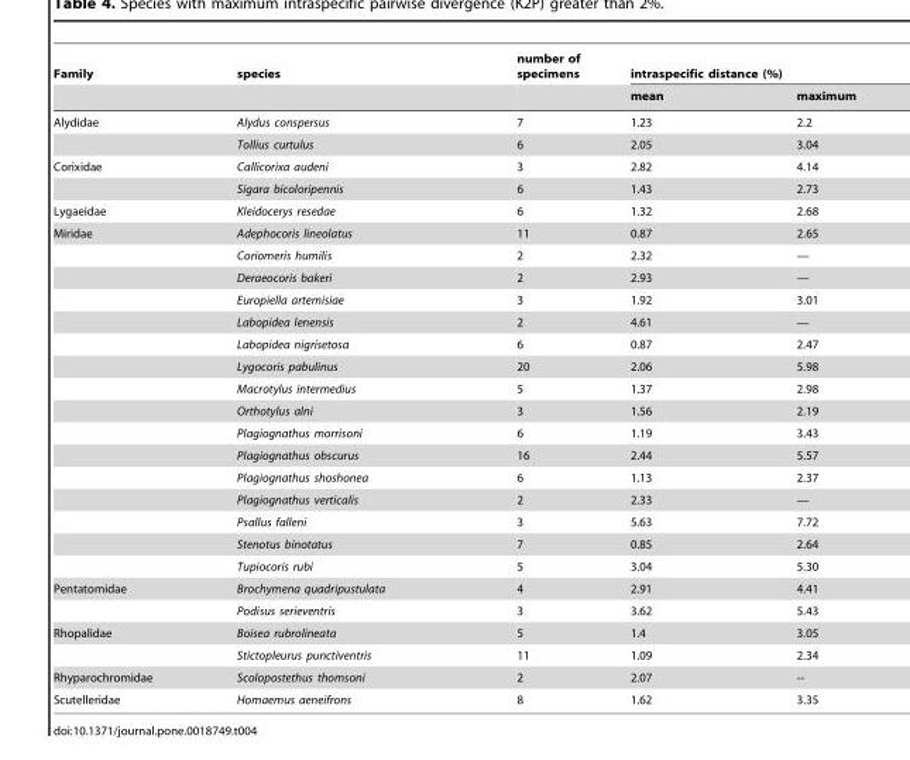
<table><thead><tr><td rowspan="2">Family</td><td rowspan="2">species</td><td rowspan="2">number of specimens</td><td colspan="2">intraspecific distance (%)</td></tr><tr><td>mean</td><td>maximum</td></tr></thead><tbody><tr><td rowspan="2">Alydidae</td><td>Alydus conspersus</td><td>7</td><td>1.23</td><td>2.2</td></tr><tr><td>Tollius curtulus</td><td>6</td><td>2.05</td><td>3.04</td></tr><tr><td rowspan="2">Corixidae</td><td>Callicorixa audeni</td><td>3</td><td>2.82</td><td>4.14</td></tr><tr><td>Sigara bicoloripennis</td><td>6</td><td>1.43</td><td>2.73</td></tr><tr><td>Lygaeidae</td><td>Kleidocerys resedae</td><td>6</td><td>1.32</td><td>2.68</td></tr><tr><td rowspan="16">Miridae</td><td>Adephocoris lineolatus</td><td>11</td><td>0.87</td><td>2.65</td></tr><tr><td>Coriomeris humilis</td><td>2</td><td>2.32</td><td>—</td></tr><tr><td>Deraeocoris bakeri</td><td>2</td><td>2.93</td><td>—</td></tr><tr><td>Europiella artemisiae</td><td>3</td><td>1.92</td><td>3.01</td></tr><tr><td>Labopidea lenensis</td><td>2</td><td>4.61</td><td>—</td></tr><tr><td>Labopidea nigrisetosa</td><td>6</td><td>0.87</td><td>2.47</td></tr><tr><td>Lygocoris pabulinus</td><td>20</td><td>2.06</td><td>5.98</td></tr><tr><td>Macrotylus intermedius</td><td>5</td><td>1.37</td><td>2.98</td></tr><tr><td>Orthotylus alni</td><td>3</td><td>1.56</td><td>2.19</td></tr><tr><td>Plagiognathus morrisoni</td><td>6</td><td>1.19</td><td>3.43</td></tr><tr><td>Plagiognathus obscurus</td><td>16</td><td>2.44</td><td>5.57</td></tr><tr><td>Plagiognathus shoshonea</td><td>6</td><td>1.13</td><td>2.37</td></tr><tr><td>Plagiognathus verticalis</td><td>2</td><td>2.33</td><td>—</td></tr><tr><td>Psallus falleni</td><td>3</td><td>5.63</td><td>7.72</td></tr><tr><td>Stenotus binotatus</td><td>7</td><td>0.85</td><td>2.64</td></tr><tr><td>Tupiocoris rubi</td><td>5</td><td>3.04</td><td>5.30</td></tr><tr><td rowspan="2">Pentatomidae</td><td>Brochymena quadripustulata</td><td>4</td><td>2.91</td><td>4.41</td></tr><tr><td>Podisus serieventris</td><td>3</td><td>3.62</td><td>5.43</td></tr><tr><td rowspan="2">Rhopalidae</td><td>Boisea rubrolineata</td><td>5</td><td>1.4</td><td>3.05</td></tr><tr><td>Stictopleurus punctiventris</td><td>11</td><td>1.09</td><td>2.34</td></tr><tr><td>Rhyparochromidae</td><td>Scolopostethus thomsoni</td><td>2</td><td>2.07</td><td>--</td></tr><tr><td>Scutelleridae</td><td>Homaemus aeneifrons</td><td>8</td><td>1.62</td><td>3.35</td></tr></tbody></table>